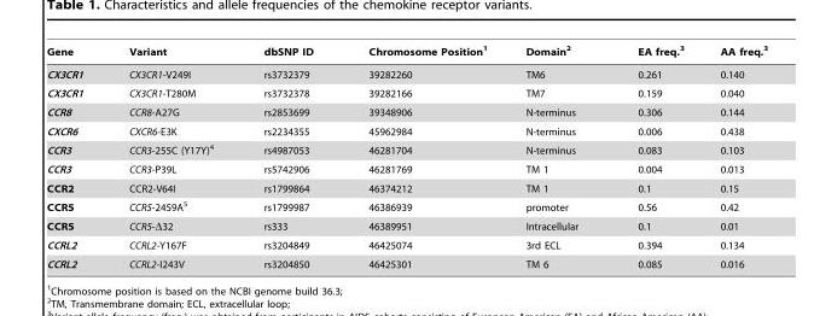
<table><thead><tr><td>Gene</td><td>Variant</td><td>dbSNP ID</td><td>Chromosome Position<sup>1</sup></td><td>Domain<sup>2</sup></td><td>EA freq.<sup>3</sup></td><td>AA freq.<sup>3</sup></td></tr></thead><tbody><tr><td>CX3CR1</td><td>CX3CR1-V249I</td><td>rs3732379</td><td>39282260</td><td>TM6</td><td>0.261</td><td>0.140</td></tr><tr><td>CX3CR1</td><td>CX3CR1-T280M</td><td>rs3732378</td><td>39282166</td><td>TM7</td><td>0.159</td><td>0.040</td></tr><tr><td>CCR8</td><td>CCR8-A27G</td><td>rs2853699</td><td>39348906</td><td>N-terminus</td><td>0.306</td><td>0.144</td></tr><tr><td>CXCR6</td><td>CXCR6-E3K</td><td>rs2234355</td><td>45962984</td><td>N-terminus</td><td>0.006</td><td>0.438</td></tr><tr><td>CCR3</td><td>CCR3-255C (Y17Y)<sup>4</sup></td><td>rs4987053</td><td>46281704</td><td>N-terminus</td><td>0.083</td><td>0.103</td></tr><tr><td>CCR3</td><td>CCR3-P39L</td><td>rs5742906</td><td>46281769</td><td>TM 1</td><td>0.004</td><td>0.013</td></tr><tr><td>CCR2</td><td>CCR2-V64I</td><td>rs1799864</td><td>46374212</td><td>TM 1</td><td>0.1</td><td>0.15</td></tr><tr><td>CCR5</td><td>CCR5-2459A<sup>5</sup></td><td>rs1799987</td><td>46386939</td><td>promoter</td><td>0.56</td><td>0.42</td></tr><tr><td>CCR5</td><td>CCR5-Δ32</td><td>rs333</td><td>46389951</td><td>Intracellular</td><td>0.1</td><td>0.01</td></tr><tr><td>CCRL2</td><td>CCRL2-Y167F</td><td>rs3204849</td><td>46425074</td><td>3rd ECL</td><td>0.394</td><td>0.134</td></tr><tr><td>CCRL2</td><td>CCRL2-I243V</td><td>rs3204850</td><td>46425301</td><td>TM 6</td><td>0.085</td><td>0.016</td></tr></tbody></table>